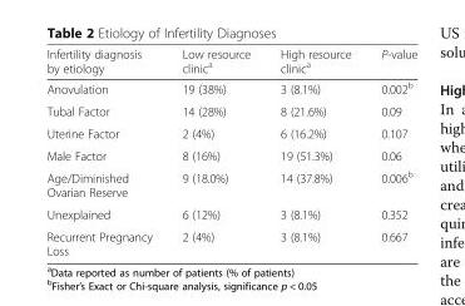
<table><thead><tr><td>Infertility diagnosis by etiology</td><td>Low resource clinic<sup>a</sup></td><td>High resource clinic<sup>a</sup></td><td>P-value</td></tr></thead><tbody><tr><td>Anovulation</td><td>19 (38%)</td><td>3 (8.1%)</td><td>0.002<sup>b</sup></td></tr><tr><td>Tubal Factor</td><td>14 (28%)</td><td>8 (21.6%)</td><td>0.09</td></tr><tr><td>Uterine Factor</td><td>2 (4%)</td><td>6 (16.2%)</td><td>0.107</td></tr><tr><td>Male Factor</td><td>8 (16%)</td><td>19 (51.3%)</td><td>0.06</td></tr><tr><td>Age/Diminished Ovarian Reserve</td><td>9 (18.0%)</td><td>14 (37.8%)</td><td>0.006<sup>b</sup></td></tr><tr><td>Unexplained</td><td>6 (12%)</td><td>3 (8.1%)</td><td>0.352</td></tr><tr><td>Recurrent Pregnancy Loss</td><td>2 (4%)</td><td>3 (8.1%)</td><td>0.667</td></tr></tbody></table>